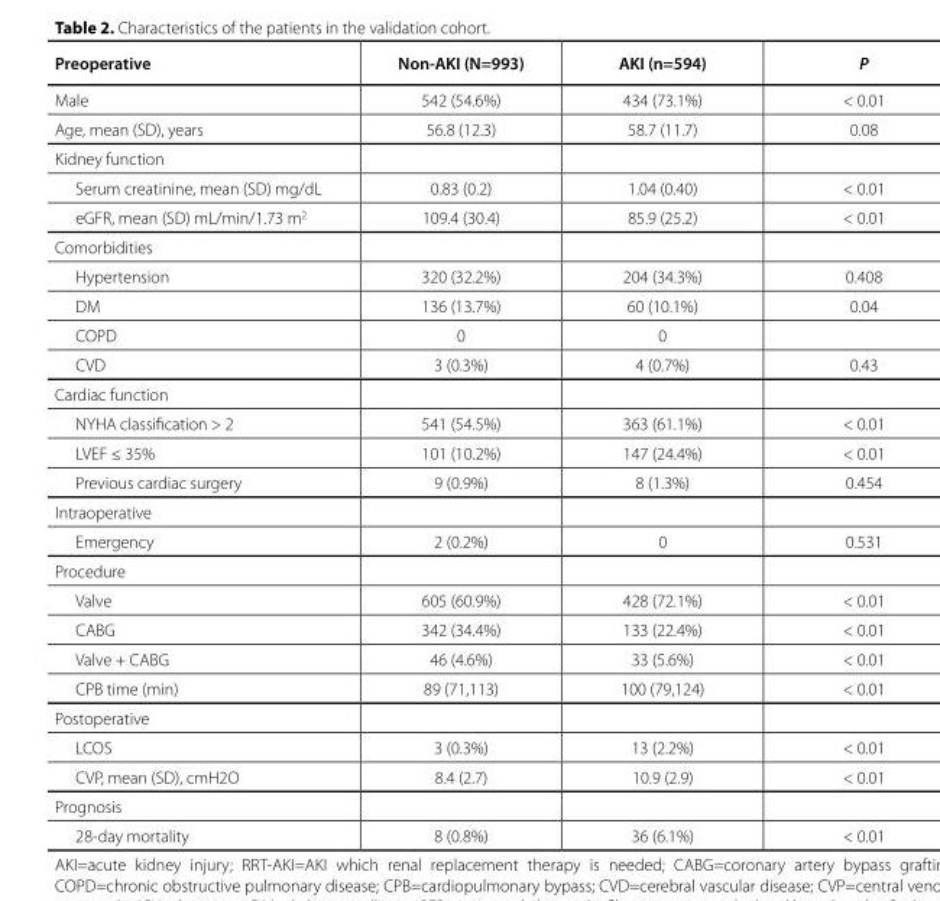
<table><thead><tr><td>Preoperative</td><td>Non-AKI (N=993)</td><td>AKI (n=594)</td><td>P</td></tr></thead><tbody><tr><td>Male</td><td>542 (54.6%)</td><td>434 (73.1%)</td><td>&lt; 0.01</td></tr><tr><td>Age, mean (SD), years</td><td>56.8 (12.3)</td><td>58.7 (11.7)</td><td>0.08</td></tr><tr><td colspan="4">Kidney function</td></tr><tr><td>Serum creatinine, mean (SD) mg/dL</td><td>0.83 (0.2)</td><td>1.04 (0.40)</td><td>&lt; 0.01</td></tr><tr><td>eGFR, mean (SD) mL/min/1.73 m<sup>2</sup></td><td>109.4 (30.4)</td><td>85.9 (25.2)</td><td>&lt; 0.01</td></tr><tr><td colspan="4">Comorbidities</td></tr><tr><td>Hypertension</td><td>320 (32.2%)</td><td>204 (34.3%)</td><td>0.408</td></tr><tr><td>DM</td><td>136 (13.7%)</td><td>60 (10.1%)</td><td>0.04</td></tr><tr><td>COPD</td><td>0</td><td>0</td><td></td></tr><tr><td>CVD</td><td>3 (0.3%)</td><td>4 (0.7%)</td><td>0.43</td></tr><tr><td colspan="4">Cardiac function</td></tr><tr><td>NYHA classification &gt; 2</td><td>541 (54.5%)</td><td>363 (61.1%)</td><td>&lt; 0.01</td></tr><tr><td>LVEF ≤ 35%</td><td>101 (10.2%)</td><td>147 (24.4%)</td><td>&lt; 0.01</td></tr><tr><td>Previous cardiac surgery</td><td>9 (0.9%)</td><td>8 (1.3%)</td><td>0.454</td></tr><tr><td colspan="4">Intraoperative</td></tr><tr><td>Emergency</td><td>2 (0.2%)</td><td>0</td><td>0.531</td></tr><tr><td colspan="4">Procedure</td></tr><tr><td>Valve</td><td>605 (60.9%)</td><td>428 (72.1%)</td><td>&lt; 0.01</td></tr><tr><td>CABG</td><td>342 (34.4%)</td><td>133 (22.4%)</td><td>&lt; 0.01</td></tr><tr><td>Valve + CABG</td><td>46 (4.6%)</td><td>33 (5.6%)</td><td>&lt; 0.01</td></tr><tr><td>CPB time (min)</td><td>89 (71,113)</td><td>100 (79,124)</td><td>&lt; 0.01</td></tr><tr><td colspan="4">Postoperative</td></tr><tr><td>LCOS</td><td>3 (0.3%)</td><td>13 (2.2%)</td><td>&lt; 0.01</td></tr><tr><td>CVP, mean (SD), cmH2O</td><td>8.4 (2.7)</td><td>10.9 (2.9)</td><td>&lt; 0.01</td></tr><tr><td colspan="4">Prognosis</td></tr><tr><td>28-day mortality</td><td>8 (0.8%)</td><td>36 (6.1%)</td><td>&lt; 0.01</td></tr></tbody></table>